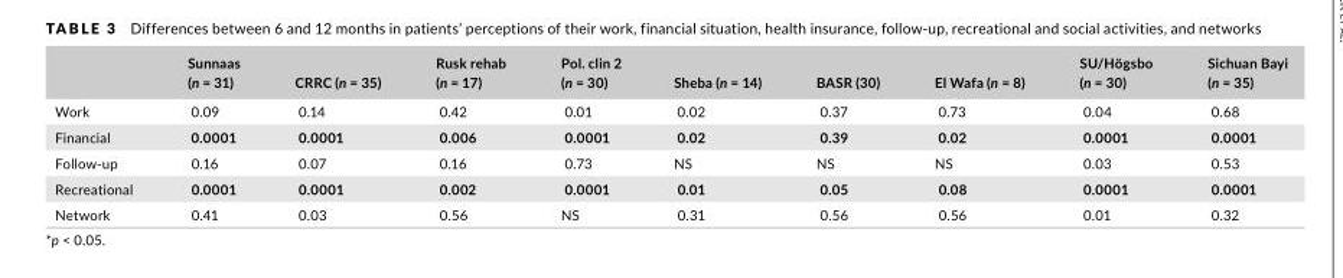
<table><thead><tr><td></td><td>Sunnaas (n = 31)</td><td>CRRC (n = 35)</td><td>Rusk rehab (n = 17)</td><td>Pol. clin 2 (n = 30)</td><td>Sheba (n = 14)</td><td>BASR (30)</td><td>El Wafa (n = 8)</td><td>SU/Högsbo (n = 30)</td><td>Sichuan Bayi (n = 35)</td></tr></thead><tbody><tr><td>Work</td><td>0.09</td><td>0.14</td><td>0.42</td><td>0.01</td><td>0.02</td><td>0.37</td><td>0.73</td><td>0.04</td><td>0.68</td></tr><tr><td>Financial</td><td>0.0001</td><td>0.0001</td><td>0.006</td><td>0.0001</td><td>0.02</td><td>0.39</td><td>0.02</td><td>0.0001</td><td>0.0001</td></tr><tr><td>Follow- up</td><td>0.16</td><td>0.07</td><td>0.16</td><td>0.73</td><td>NS</td><td>NS</td><td>NS</td><td>0.03</td><td>0.53</td></tr><tr><td>Recreational</td><td>0.0001</td><td>0.0001</td><td>0.002</td><td>0.0001</td><td>0.01</td><td>0.05</td><td>0.08</td><td>0.0001</td><td>0.0001</td></tr><tr><td>Network</td><td>0.41</td><td>0.03</td><td>0.56</td><td>NS</td><td>0.31</td><td>0.56</td><td>0.56</td><td>0.01</td><td>0.32</td></tr></tbody></table>